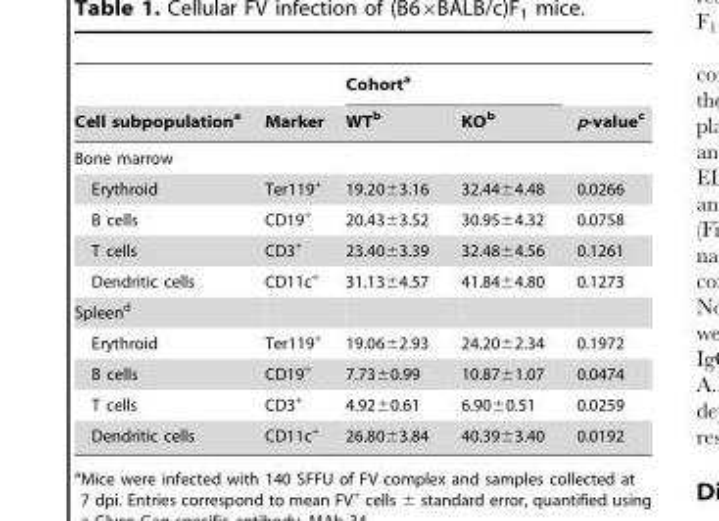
<table><thead><tr><td rowspan="2">Cell subpopulation<sup>a</sup></td><td rowspan="2">Marker</td><td colspan="2">Cohort<sup>a</sup></td><td rowspan="2">p-value<sup>c</sup></td></tr><tr><td>WT<sup>b</sup></td><td>KO<sup>b</sup></td></tr></thead><tbody><tr><td colspan="5">Bone marrow</td></tr><tr><td>Erythroid</td><td>Ter119<sup>+</sup></td><td>19.20±3.16</td><td>32.44±4.48</td><td>0.0266</td></tr><tr><td>B cells</td><td>CD19<sup>+</sup></td><td>20.43±3.52</td><td>30.95±4.32</td><td>0.0758</td></tr><tr><td>T cells</td><td>CD3<sup>+</sup></td><td>23.40±3.39</td><td>32.48±4.56</td><td>0.1261</td></tr><tr><td>Dendritic cells</td><td>CD11c<sup>+</sup></td><td>31.13±4.57</td><td>41.84±4.80</td><td>0.1273</td></tr><tr><td colspan="5">Spleen<sup>d</sup></td></tr><tr><td>Erythroid</td><td>Ter119<sup>+</sup></td><td>19.06±2.93</td><td>24.20±2.34</td><td>0.1972</td></tr><tr><td>B cells</td><td>CD19<sup>+</sup></td><td>7.73±0.99</td><td>10.87±1.07</td><td>0.0474</td></tr><tr><td>T cells</td><td>CD3<sup>+</sup></td><td>4.92±0.61</td><td>6.90±0.51</td><td>0.0259</td></tr><tr><td>Dendritic cells</td><td>CD11c<sup>+</sup></td><td>26.80±3.84</td><td>40.39±3.40</td><td>0.0192</td></tr></tbody></table>